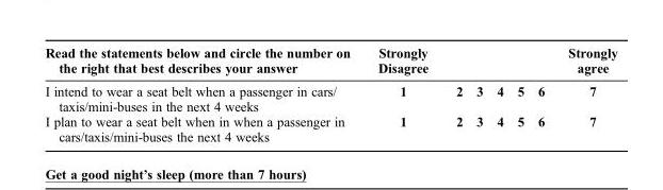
<table><tbody><tr><td>Read the statements below and circle the number on the right that best describes your answer</td><td>Strongly Disagree</td><td></td><td></td><td></td><td></td><td></td><td>Strongly agree</td></tr><tr><td>I intend to wear a seat belt when a passenger in cars/ taxis/mini-buses in the next 4 weeks</td><td>1</td><td>2</td><td>3</td><td>4</td><td>5</td><td>6</td><td>7</td></tr><tr><td>I plan to wear a seat belt when in when a passenger in cars/taxis/mini-buses the next 4 weeks</td><td>1</td><td>2</td><td>3</td><td>4</td><td>5</td><td>6</td><td>7</td></tr></tbody></table>